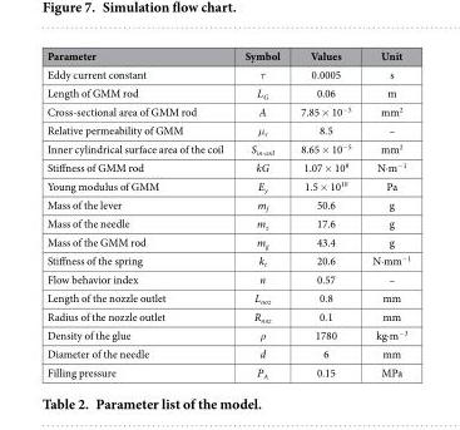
<table><thead><tr><td>Parameter</td><td>Symbol</td><td>Values</td><td>Unit</td></tr></thead><tbody><tr><td>Eddy current constant</td><td>τ</td><td>0.0005</td><td>s</td></tr><tr><td>Length of GMM rod</td><td>L<sub>G</sub></td><td>0.06</td><td>m</td></tr><tr><td>Cross-sectional area of GMM rod</td><td>A</td><td>7.85 × 10<sup>−5</sup></td><td>mm<sup>2</sup></td></tr><tr><td>Relative permeability of GMM</td><td>μ<sub>r</sub></td><td>8.5</td><td>–</td></tr><tr><td>Inner cylindrical surface area of the coil</td><td>S<sub>in-coil</sub></td><td>8.65 × 10<sup>−5</sup></td><td>mm<sup>2</sup></td></tr><tr><td>Stiffness of GMM rod</td><td>kG</td><td>1.07 × 10<sup>8</sup></td><td>N·m<sup>−1</sup></td></tr><tr><td>Young modulus of GMM</td><td>E<sub>y</sub></td><td>1.5 × 10<sup>10</sup></td><td>Pa</td></tr><tr><td>Mass of the lever</td><td>m<sub>f</sub></td><td>50.6</td><td>g</td></tr><tr><td>Mass of the needle</td><td>m<sub>z</sub></td><td>17.6</td><td>g</td></tr><tr><td>Mass of the GMM rod</td><td>m<sub>g</sub></td><td>43.4</td><td>g</td></tr><tr><td>Stiffness of the spring</td><td>k<sub>t</sub></td><td>20.6</td><td>N·mm<sup>−1</sup></td></tr><tr><td>Flow behavior index</td><td>n</td><td>0.57</td><td>–</td></tr><tr><td>Length of the nozzle outlet</td><td>L<sub>noz</sub></td><td>0.8</td><td>mm</td></tr><tr><td>Radius of the nozzle outlet</td><td>R<sub>noz</sub></td><td>0.1</td><td>mm</td></tr><tr><td>Density of the glue</td><td>ρ</td><td>1780</td><td>kg·m<sup>−3</sup></td></tr><tr><td>Diameter of the needle</td><td>d</td><td>6</td><td>mm</td></tr><tr><td>Filling pressure</td><td>P<sub>A</sub></td><td>0.15</td><td>MPa</td></tr></tbody></table>